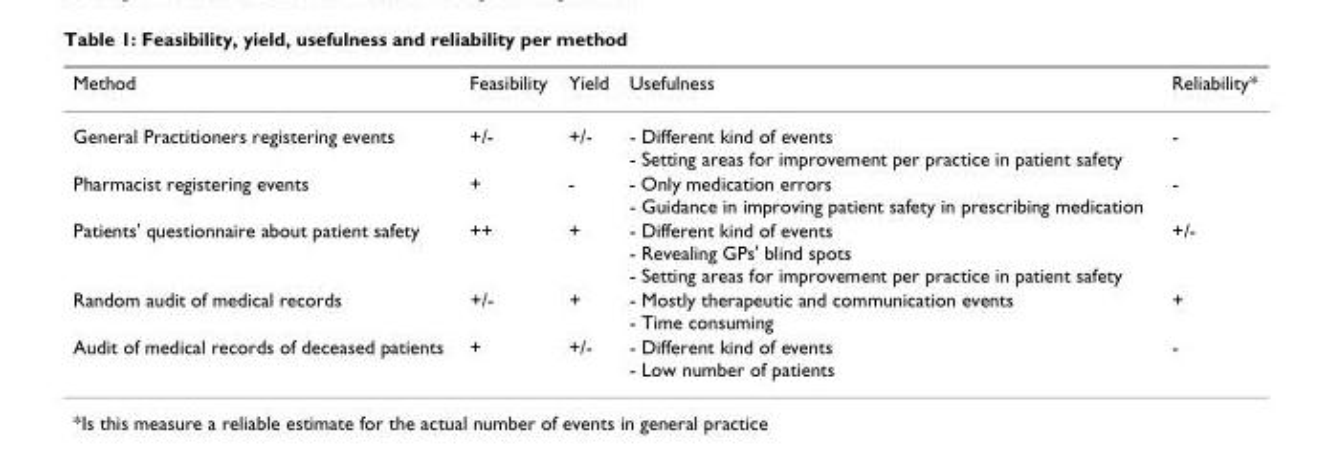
<table><thead><tr><td>Method</td><td>Feasibility</td><td>Yield</td><td>Usefulness</td><td>Reliability*</td></tr></thead><tbody><tr><td>General Practitioners registering events</td><td>+/-</td><td>+/-</td><td>- Different kind of events - Setting areas for improvement per practice in patient safety</td><td>-</td></tr><tr><td>Pharmacist registering events</td><td>+</td><td>-</td><td>- Only medication errors - Guidance in improving patient safety in prescribing medication</td><td>-</td></tr><tr><td>Patients&#x27; questionnaire about patient safety</td><td>++</td><td>+</td><td>- Different kind of events - Revealing GPs&#x27; blind spots - Setting areas for improvement per practice in patient safety</td><td>+/-</td></tr><tr><td>Random audit of medical records</td><td>+/-</td><td>+</td><td>- Mostly therapeutic and communication events - Time consuming</td><td>+</td></tr><tr><td>Audit of medical records of deceased patients</td><td>+</td><td>+/-</td><td>- Different kind of events - Low number of patients</td><td>-</td></tr></tbody></table>